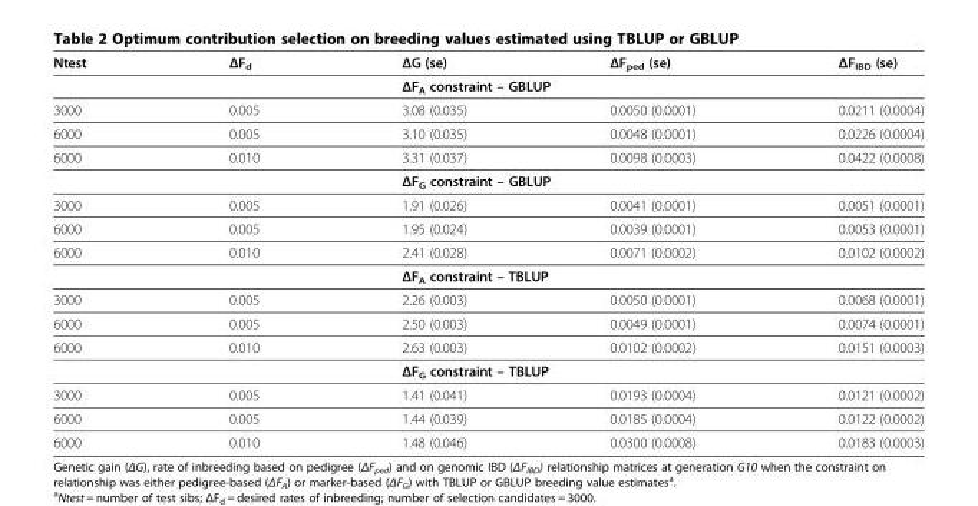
<table><thead><tr><td>Ntest</td><td>ΔF<sub>d</sub></td><td>ΔG (se)</td><td>ΔF<sub>ped</sub> (se)</td><td>ΔF<sub>IBD</sub> (se)</td></tr></thead><tbody><tr><td></td><td></td><td colspan="3">ΔF<sub>A</sub> constraint – GBLUP</td></tr><tr><td>3000</td><td>0.005</td><td>3.08 (0.035)</td><td>0.0050 (0.0001)</td><td>0.0211 (0.0004)</td></tr><tr><td>6000</td><td>0.005</td><td>3.10 (0.035)</td><td>0.0048 (0.0001)</td><td>0.0226 (0.0004)</td></tr><tr><td rowspan="2">6000</td><td>0.010</td><td>3.31 (0.037)</td><td>0.0098 (0.0003)</td><td>0.0422 (0.0008)</td></tr><tr><td></td><td colspan="3">ΔF<sub>G</sub> constraint – GBLUP</td></tr><tr><td>3000</td><td>0.005</td><td>1.91 (0.026)</td><td>0.0041 (0.0001)</td><td>0.0051 (0.0001)</td></tr><tr><td>6000</td><td>0.005</td><td>1.95 (0.024)</td><td>0.0039 (0.0001)</td><td>0.0053 (0.0001)</td></tr><tr><td rowspan="2">6000</td><td>0.010</td><td>2.41 (0.028)</td><td>0.0071 (0.0002)</td><td>0.0102 (0.0002)</td></tr><tr><td></td><td colspan="3">ΔF<sub>A</sub> constraint – TBLUP</td></tr><tr><td>3000</td><td>0.005</td><td>2.26 (0.003)</td><td>0.0050 (0.0001)</td><td>0.0068 (0.0001)</td></tr><tr><td>6000</td><td>0.005</td><td>2.50 (0.003)</td><td>0.0049 (0.0001)</td><td>0.0074 (0.0001)</td></tr><tr><td rowspan="2">6000</td><td>0.010</td><td>2.63 (0.003)</td><td>0.0102 (0.0002)</td><td>0.0151 (0.0003)</td></tr><tr><td></td><td colspan="3">ΔF<sub>G</sub> constraint – TBLUP</td></tr><tr><td>3000</td><td>0.005</td><td>1.41 (0.041)</td><td>0.0193 (0.0004)</td><td>0.0121 (0.0002)</td></tr><tr><td>6000</td><td>0.005</td><td>1.44 (0.039)</td><td>0.0185 (0.0004)</td><td>0.0122 (0.0002)</td></tr><tr><td>6000</td><td>0.010</td><td>1.48 (0.046)</td><td>0.0300 (0.0008)</td><td>0.0183 (0.0003)</td></tr></tbody></table>